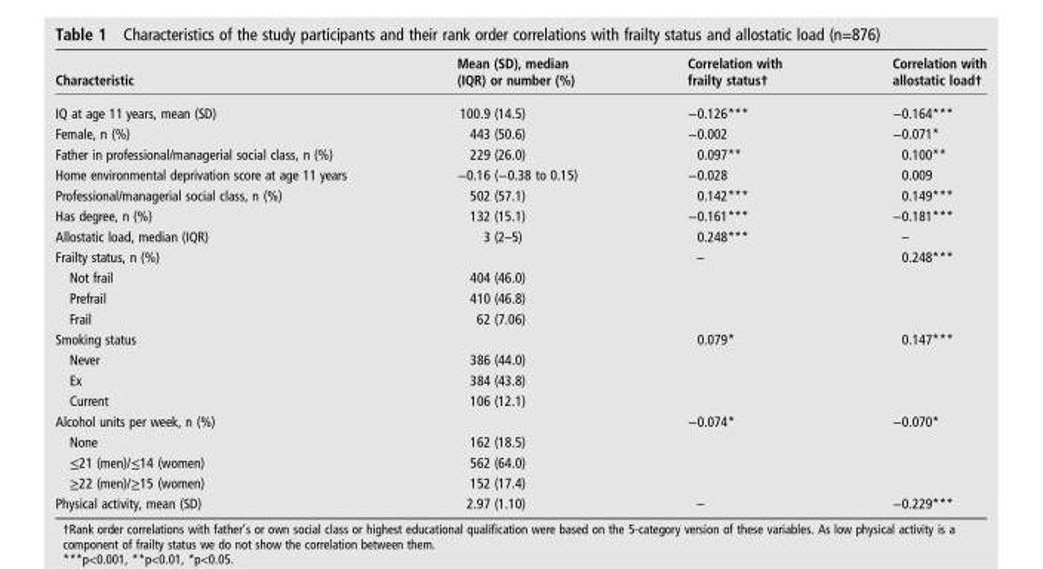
<table><thead><tr><td>Characteristic</td><td>Mean (SD), median (IQR) or number (%)</td><td>Correlation with frailty status†</td><td>Correlation with allostatic load†</td></tr></thead><tbody><tr><td>IQ at age 11 years, mean (SD)</td><td>100.9 (14.5)</td><td>−0.126***</td><td>−0.164***</td></tr><tr><td>Female, n (%)</td><td>443 (50.6)</td><td>−0.002</td><td>−0.071*</td></tr><tr><td>Father in professional/managerial social class, n (%)</td><td>229 (26.0)</td><td>0.097**</td><td>0.100**</td></tr><tr><td>Home environmental deprivation score at age 11 years</td><td>−0.16 (−0.38 to 0.15)</td><td>−0.028</td><td>0.009</td></tr><tr><td>Professional/managerial social class, n (%)</td><td>502 (57.1)</td><td>0.142***</td><td>0.149***</td></tr><tr><td>Has degree, n (%)</td><td>132 (15.1)</td><td>−0.161***</td><td>−0.181***</td></tr><tr><td>Allostatic load, median (IQR)</td><td>3 (2–5)</td><td>0.248***</td><td>–</td></tr><tr><td>Frailty status, n (%)</td><td></td><td>–</td><td>0.248***</td></tr><tr><td>Not frail</td><td>404 (46.0)</td><td></td><td></td></tr><tr><td>Prefrail</td><td>410 (46.8)</td><td></td><td></td></tr><tr><td>Frail</td><td>62 (7.06)</td><td></td><td></td></tr><tr><td>Smoking status</td><td></td><td>0.079*</td><td>0.147***</td></tr><tr><td>Never</td><td>386 (44.0)</td><td></td><td></td></tr><tr><td>Ex</td><td>384 (43.8)</td><td></td><td></td></tr><tr><td>Current</td><td>106 (12.1)</td><td></td><td></td></tr><tr><td>Alcohol units per week, n (%)</td><td></td><td>−0.074*</td><td>−0.070*</td></tr><tr><td>None</td><td>162 (18.5)</td><td></td><td></td></tr><tr><td>≤21 (men)/≤14 (women)</td><td>562 (64.0)</td><td></td><td></td></tr><tr><td>≥22 (men)/≥15 (women)</td><td>152 (17.4)</td><td></td><td></td></tr><tr><td>Physical activity, mean (SD)</td><td>2.97 (1.10)</td><td>–</td><td>−0.229***</td></tr></tbody></table>